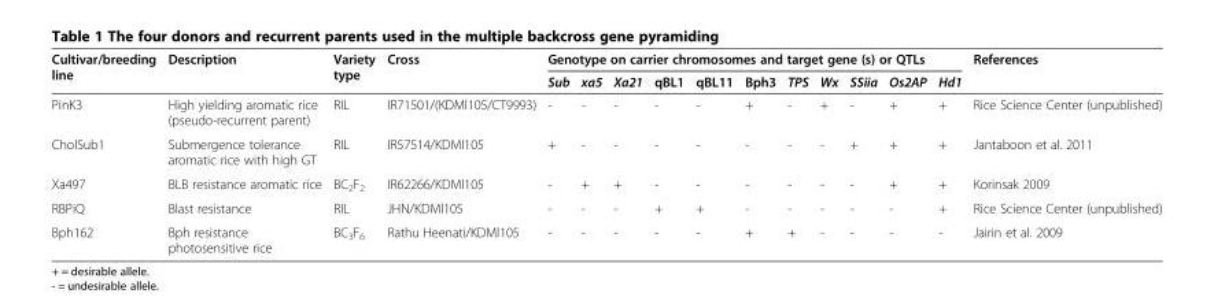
<table><thead><tr><td rowspan="2">Cultivar/breeding line</td><td rowspan="2">Description</td><td rowspan="2">Variety type</td><td rowspan="2">Cross</td><td colspan="11">Genotype on carrier chromosomes and target gene (s) or QTLs</td><td rowspan="2">References</td></tr><tr><td>Sub</td><td>xa5</td><td>Xa21</td><td>qBL1</td><td>qBL11</td><td>Bph3</td><td>TPS</td><td>Wx</td><td>SSiia</td><td>Os2AP</td><td>Hd1</td></tr></thead><tbody><tr><td>PinK3</td><td>High yielding aromatic rice (pseudo-recurrent parent)</td><td>RIL</td><td>IR71501/(KDMl105/CT9993)</td><td>-</td><td>-</td><td>-</td><td>-</td><td>-</td><td>+</td><td>-</td><td>+</td><td>-</td><td>+</td><td>+</td><td>Rice Science Center (unpublished)</td></tr><tr><td>CholSub1</td><td>Submergence tolerance aromatic rice with high GT</td><td>RIL</td><td>IR57514/KDMl105</td><td>+</td><td>-</td><td>-</td><td>-</td><td>-</td><td>-</td><td>-</td><td>-</td><td>+</td><td>+</td><td>+</td><td>Jantaboon et al. 2011</td></tr><tr><td>Xa497</td><td>BLB resistance aromatic rice</td><td>BC<sub>2</sub>F<sub>2</sub></td><td>IR62266/KDMl105</td><td>-</td><td>+</td><td>+</td><td>-</td><td>-</td><td>-</td><td>-</td><td>-</td><td>-</td><td>+</td><td>+</td><td>Korinsak 2009</td></tr><tr><td>RBPiQ</td><td>Blast resistance</td><td>RIL</td><td>JHN/KDMl105</td><td>-</td><td>-</td><td>-</td><td>+</td><td>+</td><td>-</td><td>-</td><td>-</td><td>-</td><td>-</td><td>+</td><td>Rice Science Center (unpublished)</td></tr><tr><td>Bph162</td><td>Bph resistance photosensitive rice</td><td>BC<sub>3</sub>F<sub>6</sub></td><td>Rathu Heenati/KDMl105</td><td>-</td><td>-</td><td>-</td><td>-</td><td>-</td><td>+</td><td>+</td><td>-</td><td>-</td><td>-</td><td>-</td><td>Jairin et al. 2009</td></tr></tbody></table>